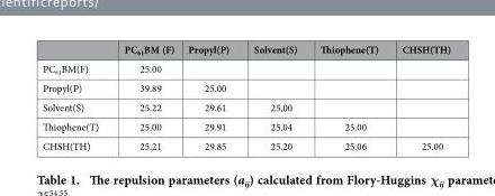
<table><thead><tr><td></td><td>PC<sub>61</sub>BM (F)</td><td>Propyl(P)</td><td>Solvent(S)</td><td>Thiophene(T)</td><td>CHSH(TH)</td></tr></thead><tbody><tr><td>PC<sub>61</sub>BM(F)</td><td>25.00</td><td></td><td></td><td></td><td></td></tr><tr><td>Propyl(P)</td><td>39.89</td><td>25.00</td><td></td><td></td><td></td></tr><tr><td>Solvent(S)</td><td>25.22</td><td>29.61</td><td>25,00</td><td></td><td></td></tr><tr><td>Thiophene(T)</td><td>25.00</td><td>29.91</td><td>25.04</td><td>25.00</td><td></td></tr><tr><td>CHSH(TH)</td><td>25.21</td><td>29.85</td><td>25.20</td><td>25.06</td><td>25.00</td></tr></tbody></table>